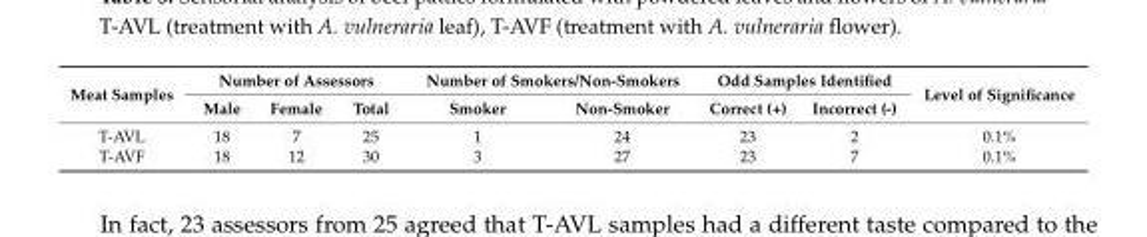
<table><thead><tr><td rowspan="2">Meat Samples</td><td colspan="3">Number of Assessors</td><td colspan="2">Number of Smokers/Non-Smokers</td><td colspan="2">Odd Samples Identified</td><td rowspan="2">Level of Significance</td></tr><tr><td>Male</td><td>Female</td><td>Total</td><td>Smoker</td><td>Non-Smoker</td><td>Correct (+)</td><td>Incorrect (-)</td></tr></thead><tbody><tr><td>T-AVL</td><td>18</td><td>7</td><td>25</td><td>1</td><td>24</td><td>23</td><td>2</td><td>0.1%</td></tr><tr><td>T-AVF</td><td>18</td><td>12</td><td>30</td><td>3</td><td>27</td><td>23</td><td>7</td><td>0.1%</td></tr></tbody></table>